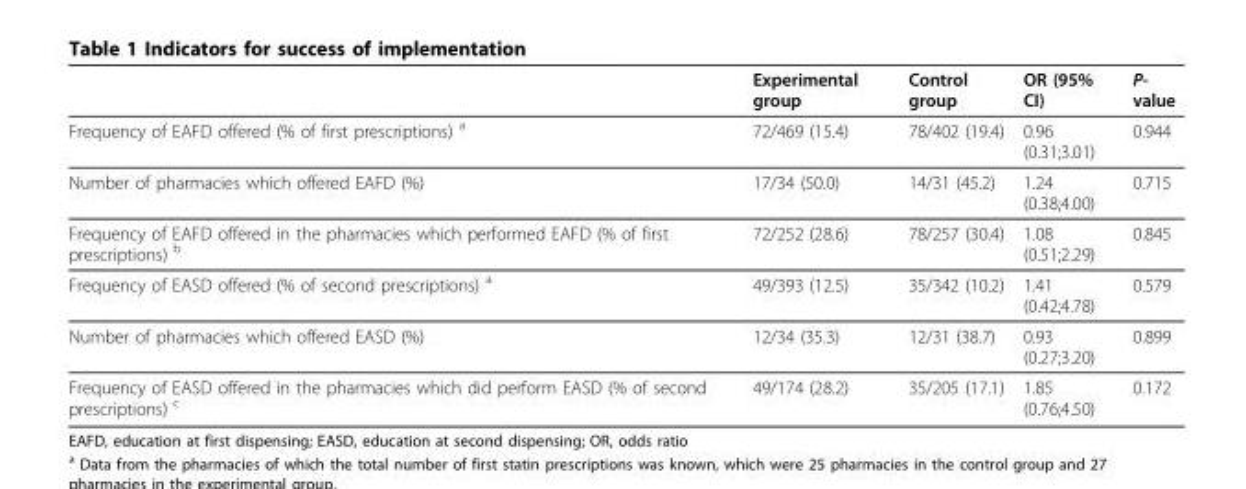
<table><thead><tr><td></td><td>Experimental group</td><td>Control group</td><td>OR (95% CI)</td><td>P- value</td></tr></thead><tbody><tr><td>Frequency of EAFD offered (% of first prescriptions) <sup>a</sup></td><td>72/469 (15.4)</td><td>78/402 (19.4)</td><td>0.96 (0.31;3.01)</td><td>0.944</td></tr><tr><td>Number of pharmacies which offered EAFD (%)</td><td>17/34 (50.0)</td><td>14/31 (45.2)</td><td>1.24 (0.38;4.00)</td><td>0.715</td></tr><tr><td>Frequency of EAFD offered in the pharmacies which performed EAFD (% of first prescriptions) <sup>b</sup></td><td>72/252 (28.6)</td><td>78/257 (30.4)</td><td>1.08 (0.51;2.29)</td><td>0.845</td></tr><tr><td>Frequency of EASD offered (% of second prescriptions) <sup>a</sup></td><td>49/393 (12.5)</td><td>35/342 (10.2)</td><td>1.41 (0.42;4.78)</td><td>0.579</td></tr><tr><td>Number of pharmacies which offered EASD (%)</td><td>12/34 (35.3)</td><td>12/31 (38.7)</td><td>0.93 (0.27;3.20)</td><td>0.899</td></tr><tr><td>Frequency of EASD offered in the pharmacies which did perform EASD (% of second prescriptions) <sup>c</sup></td><td>49/174 (28.2)</td><td>35/205 (17.1)</td><td>1.85 (0.76;4.50)</td><td>0.172</td></tr></tbody></table>